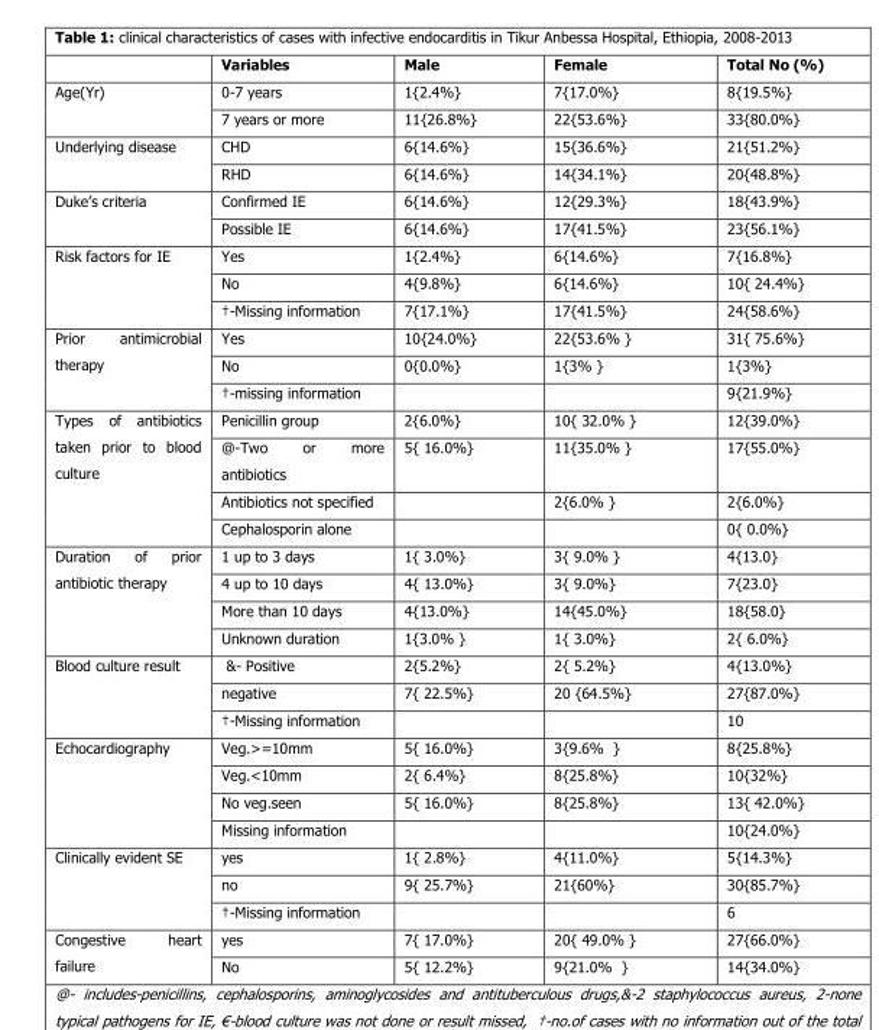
<table><thead><tr><td></td><td>Variables</td><td>Male</td><td>Female</td><td>Total No (%)</td></tr></thead><tbody><tr><td rowspan="2">Age(Yr)</td><td>0-7 years</td><td>1{2.4%}</td><td>7{17.0%}</td><td>8{19.5%}</td></tr><tr><td>7 years or more</td><td>11{26.8%}</td><td>22{53.6%}</td><td>33{80.0%}</td></tr><tr><td rowspan="2">Underlying disease</td><td>CHD</td><td>6{14.6%}</td><td>15{36.6%}</td><td>21{51.2%}</td></tr><tr><td>RHD</td><td>6{14.6%}</td><td>14{34.1%}</td><td>20{48.8%}</td></tr><tr><td rowspan="2">Duke’s criteria</td><td>Confirmed IE</td><td>6{14.6%}</td><td>12{29.3%}</td><td>18{43.9%}</td></tr><tr><td>Possible IE</td><td>6{14.6%}</td><td>17{41.5%}</td><td>23{56.1%}</td></tr><tr><td rowspan="3">Risk factors for IE</td><td>Yes</td><td>1{2.4%}</td><td>6{14.6%}</td><td>7{16.8%}</td></tr><tr><td>No</td><td>4{9.8%}</td><td>6{14.6%}</td><td>10{ 24.4%}</td></tr><tr><td>†-Missing information</td><td>7{17.1%}</td><td>17{41.5%}</td><td>24{58.6%}</td></tr><tr><td rowspan="3">Prior antimicrobial therapy</td><td>Yes</td><td>10{24.0%}</td><td>22{53.6% }</td><td>31{ 75.6%}</td></tr><tr><td>No</td><td>0{0.0%}</td><td>1{3% }</td><td>1{3%}</td></tr><tr><td>†-missing information</td><td></td><td></td><td>9{21.9%}</td></tr><tr><td rowspan="4">Types of antibiotics taken prior to blood culture</td><td>Penicillin group</td><td>2{6.0%}</td><td>10{ 32.0% }</td><td>12{39.0%}</td></tr><tr><td>@-Two or more antibiotics</td><td>5{ 16.0%}</td><td>11{35.0% }</td><td>17{55.0%}</td></tr><tr><td>Antibiotics not specified</td><td></td><td>2{6.0% }</td><td>2{6.0%}</td></tr><tr><td>Cephalosporin alone</td><td></td><td></td><td>0{ 0.0%}</td></tr><tr><td rowspan="4">Duration of prior antibiotic therapy</td><td>1 up to 3 days</td><td>1{ 3.0%}</td><td>3{ 9.0% }</td><td>4{13.0}</td></tr><tr><td>4 up to 10 days</td><td>4{ 13.0%}</td><td>3{ 9.0%}</td><td>7{23.0}</td></tr><tr><td>More than 10 days</td><td>4{13.0%}</td><td>14{45.0%}</td><td>18{58.0}</td></tr><tr><td>Unknown duration</td><td>1{3.0% }</td><td>1{ 3.0%}</td><td>2{ 6.0%}</td></tr><tr><td rowspan="3">Blood culture result</td><td>&amp;- Positive</td><td>2{5.2%}</td><td>2{ 5.2%}</td><td>4{13.0%}</td></tr><tr><td>negative</td><td>7{ 22.5%}</td><td>20 {64.5%}</td><td>27{87.0%}</td></tr><tr><td>†-Missing information</td><td></td><td></td><td>10</td></tr><tr><td rowspan="4">Echocardiography</td><td>Veg.&gt;=10mm</td><td>5{ 16.0%}</td><td>3{9.6% }</td><td>8{25.8%}</td></tr><tr><td>Veg.&lt;10mm</td><td>2{ 6.4%}</td><td>8{25.8%}</td><td>10{32%}</td></tr><tr><td>No veg.seen</td><td>5{ 16.0%}</td><td>8{25.8%}</td><td>13{ 42.0%}</td></tr><tr><td>Missing information</td><td></td><td></td><td>10{24.0%}</td></tr><tr><td rowspan="3">Clinically evident SE</td><td>yes</td><td>1{ 2.8%}</td><td>4{11.0%}</td><td>5{14.3%}</td></tr><tr><td>no</td><td>9{ 25.7%}</td><td>21{60%}</td><td>30{85.7%}</td></tr><tr><td>†-Missing information</td><td></td><td></td><td>6</td></tr><tr><td rowspan="2">Congestive heart failure</td><td>yes</td><td>7{ 17.0%}</td><td>20{ 49.0% }</td><td>27{66.0%}</td></tr><tr><td>No</td><td>5{ 12.2%}</td><td>9{21.0% }</td><td>14{34.0%}</td></tr></tbody></table>